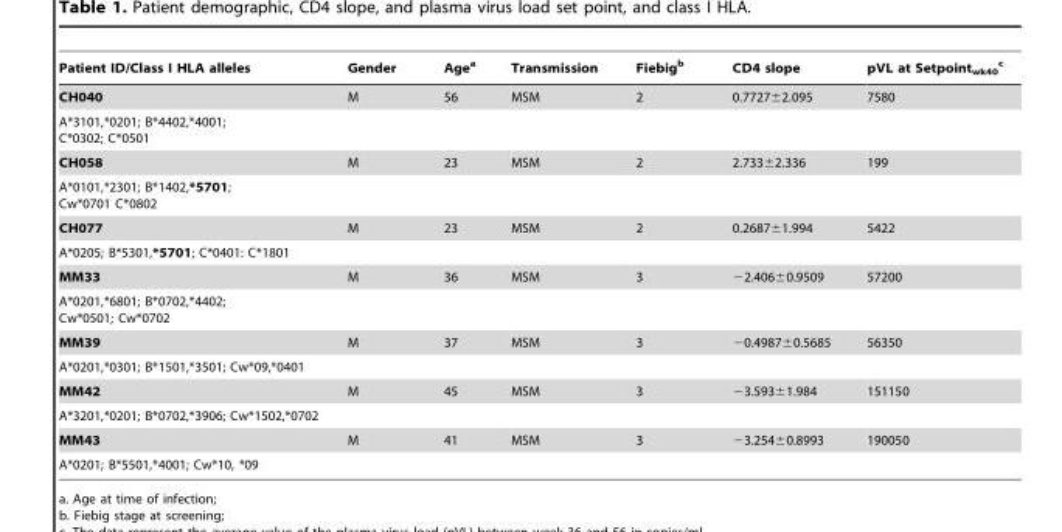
<table><thead><tr><td>Patient ID/Class I HLA alleles</td><td>Gender</td><td>Age<sup>a</sup></td><td>Transmission</td><td>Fiebig<sup>b</sup></td><td>CD4 slope</td><td>pVL at Setpoint<sub>wk40</sub> c</td></tr></thead><tbody><tr><td>CH040</td><td>M</td><td>56</td><td>MSM</td><td>2</td><td>0.7727±2.095</td><td>7580</td></tr><tr><td colspan="7">A*3101,*0201; B*4402,*4001; C*0302; C*0501</td></tr><tr><td>CH058</td><td>M</td><td>23</td><td>MSM</td><td>2</td><td>2.733±2.336</td><td>199</td></tr><tr><td colspan="7">A*0101,*2301; B*1402,*5701; Cw*0701 C*0802</td></tr><tr><td>CH077</td><td>M</td><td>23</td><td>MSM</td><td>2</td><td>0.2687±1.994</td><td>5422</td></tr><tr><td colspan="7">A*0205; B*5301,*5701; C*0401: C*1801</td></tr><tr><td>MM33</td><td>M</td><td>36</td><td>MSM</td><td>3</td><td>−2.406±0.9509</td><td>57200</td></tr><tr><td colspan="7">A*0201,*6801; B*0702,*4402; Cw*0501; Cw*0702</td></tr><tr><td>MM39</td><td>M</td><td>37</td><td>MSM</td><td>3</td><td>−0.4987±0.5685</td><td>56350</td></tr><tr><td colspan="7">A*0201,*0301; B*1501,*3501; Cw*09,*0401</td></tr><tr><td>MM42</td><td>M</td><td>45</td><td>MSM</td><td>3</td><td>−3.593±1.984</td><td>151150</td></tr><tr><td colspan="7">A*3201,*0201; B*0702,*3906; Cw*1502,*0702</td></tr><tr><td>MM43</td><td>M</td><td>41</td><td>MSM</td><td>3</td><td>−3.254±0.8993</td><td>190050</td></tr><tr><td>A*0201; B*5501,*4001; Cw*10, *09</td><td></td><td></td><td></td><td></td><td></td><td></td></tr></tbody></table>